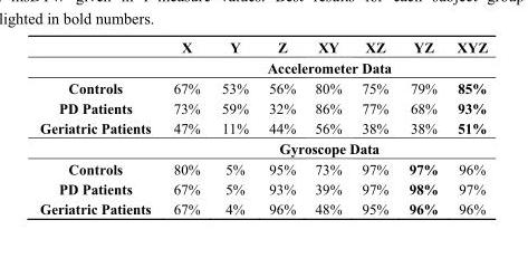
<table><thead><tr><td></td><td>X</td><td>Y</td><td>Z</td><td>XY</td><td>XZ</td><td>YZ</td><td>XYZ</td></tr></thead><tbody><tr><td></td><td colspan="7">Accelerometer Data</td></tr><tr><td>Controls</td><td>67%</td><td>53%</td><td>56%</td><td>80%</td><td>75%</td><td>79%</td><td>85%</td></tr><tr><td>PD Patients</td><td>73%</td><td>59%</td><td>32%</td><td>86%</td><td>77%</td><td>68%</td><td>93%</td></tr><tr><td rowspan="2">Geriatric Patients</td><td>47%</td><td>11%</td><td>44%</td><td>56%</td><td>38%</td><td>38%</td><td>51%</td></tr><tr><td colspan="7">Gyroscope Data</td></tr><tr><td>Controls</td><td>80%</td><td>5%</td><td>95%</td><td>73%</td><td>97%</td><td>97%</td><td>96%</td></tr><tr><td>PD Patients</td><td>67%</td><td>5%</td><td>93%</td><td>39%</td><td>97%</td><td>98%</td><td>97%</td></tr><tr><td>Geriatric Patients</td><td>67%</td><td>4%</td><td>96%</td><td>48%</td><td>95%</td><td>96%</td><td>96%</td></tr></tbody></table>